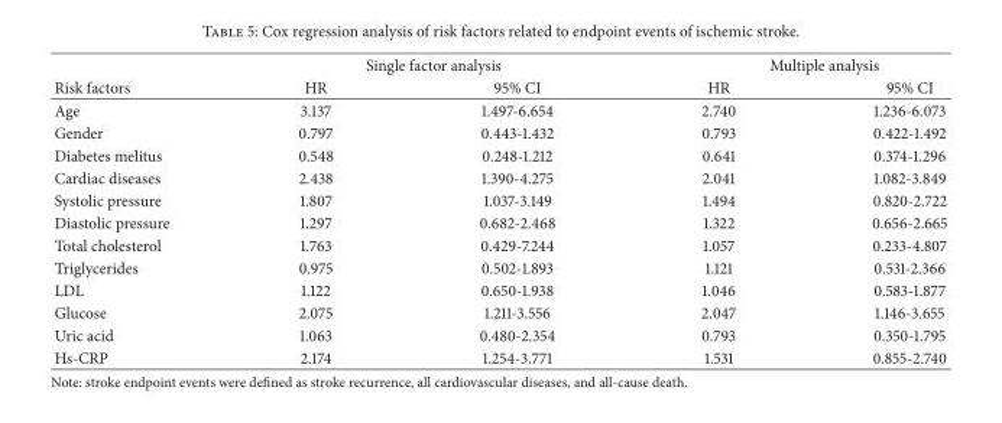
<table><thead><tr><td rowspan="2">Risk factors</td><td colspan="2">Single factor analysis</td><td colspan="2">Multiple analysis</td></tr><tr><td>HR</td><td>95% CI</td><td>HR</td><td>95% CI</td></tr></thead><tbody><tr><td>Age</td><td>3.137</td><td>1.497-6.654</td><td>2.740</td><td>1.236-6.073</td></tr><tr><td>Gender</td><td>0.797</td><td>0.443-1.432</td><td>0.793</td><td>0.422-1.492</td></tr><tr><td>Diabetes melitus</td><td>0.548</td><td>0.248-1.212</td><td>0.641</td><td>0.374-1.296</td></tr><tr><td>Cardiac diseases</td><td>2.438</td><td>1.390-4.275</td><td>2.041</td><td>1.082-3.849</td></tr><tr><td>Systolic pressure</td><td>1.807</td><td>1.037-3.149</td><td>1.494</td><td>0.820-2.722</td></tr><tr><td>Diastolic pressure</td><td>1.297</td><td>0.682-2.468</td><td>1.322</td><td>0.656-2.665</td></tr><tr><td>Total cholesterol</td><td>1.763</td><td>0.429-7.244</td><td>1.057</td><td>0.233-4.807</td></tr><tr><td>Triglycerides</td><td>0.975</td><td>0.502-1.893</td><td>1.121</td><td>0.531-2.366</td></tr><tr><td>LDL</td><td>1.122</td><td>0.650-1.938</td><td>1.046</td><td>0.583-1.877</td></tr><tr><td>Glucose</td><td>2.075</td><td>1.211-3.556</td><td>2.047</td><td>1.146-3.655</td></tr><tr><td>Uric acid</td><td>1.063</td><td>0.480-2.354</td><td>0.793</td><td>0.350-1.795</td></tr><tr><td>Hs-CRP</td><td>2.174</td><td>1.254-3.771</td><td>1.531</td><td>0.855-2.740</td></tr></tbody></table>